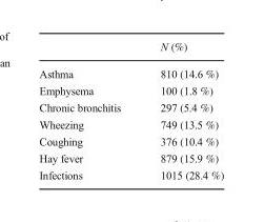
<table><thead><tr><td></td><td>N (%)</td></tr></thead><tbody><tr><td>Asthma</td><td>810 (14.6 %)</td></tr><tr><td>Emphysema</td><td>100 (1.8 %)</td></tr><tr><td>Chronic bronchitis</td><td>297 (5.4 %)</td></tr><tr><td>Wheezing</td><td>749 (13.5 %)</td></tr><tr><td>Coughing</td><td>376 (10.4 %)</td></tr><tr><td>Hay fever</td><td>879 (15.9 %)</td></tr><tr><td>Infections</td><td>1015 (28.4 %)</td></tr></tbody></table>